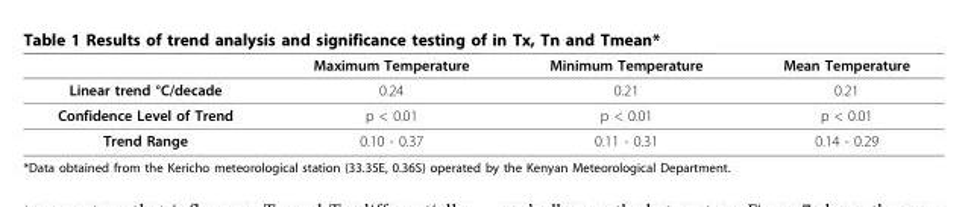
<table><thead><tr><td></td><td>Maximum Temperature</td><td>Minimum Temperature</td><td>Mean Temperature</td></tr></thead><tbody><tr><td>Linear trend °C/decade</td><td>0.24</td><td>0.21</td><td>0.21</td></tr><tr><td>Confidence Level of Trend</td><td>p &lt; 0.01</td><td>p &lt; 0.01</td><td>p &lt; 0.01</td></tr><tr><td>Trend Range</td><td>0.10 - 0.37</td><td>0.11 - 0.31</td><td>0.14 - 0.29</td></tr></tbody></table>